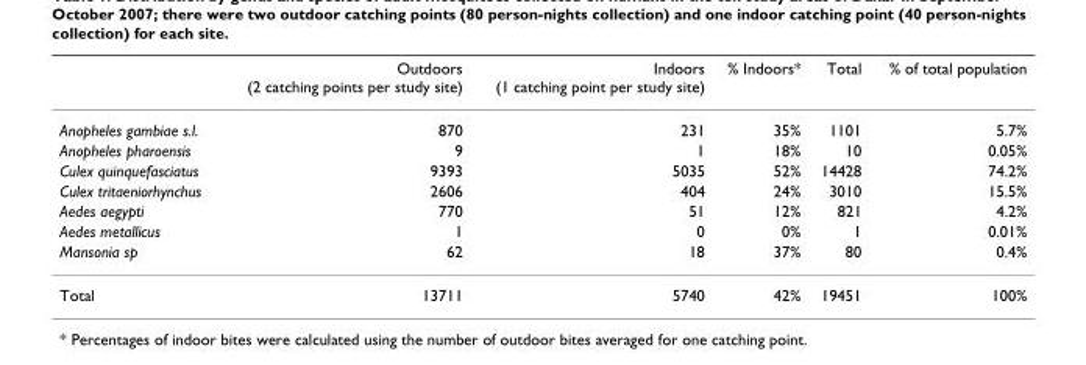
<table><thead><tr><td></td><td>Outdoors (2 catching points per study site)</td><td>Indoors (1 catching point per study site)</td><td>% Indoors*</td><td>Total</td><td>% of total population</td></tr></thead><tbody><tr><td>Anopheles gambiae s.l.</td><td>870</td><td>231</td><td>35%</td><td>1101</td><td>5.7%</td></tr><tr><td>Anopheles pharoensis</td><td>9</td><td>1</td><td>18%</td><td>10</td><td>0.05%</td></tr><tr><td>Culex quinquefasciatus</td><td>9393</td><td>5035</td><td>52%</td><td>14428</td><td>74.2%</td></tr><tr><td>Culex tritaeniorhynchus</td><td>2606</td><td>404</td><td>24%</td><td>3010</td><td>15.5%</td></tr><tr><td>Aedes aegypti</td><td>770</td><td>51</td><td>12%</td><td>821</td><td>4.2%</td></tr><tr><td>Aedes metallicus</td><td>1</td><td>0</td><td>0%</td><td>1</td><td>0.01%</td></tr><tr><td>Mansonia sp</td><td>62</td><td>18</td><td>37%</td><td>80</td><td>0.4%</td></tr><tr><td>Total</td><td>13711</td><td>5740</td><td>42%</td><td>19451</td><td>100%</td></tr></tbody></table>